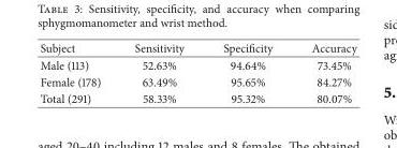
<table><thead><tr><td>Subject</td><td>Sensitivity</td><td>Specificity</td><td>Accuracy</td></tr></thead><tbody><tr><td>Male (113)</td><td>52.63%</td><td>94.64%</td><td>73.45%</td></tr><tr><td>Female (178)</td><td>63.49%</td><td>95.65%</td><td>84.27%</td></tr><tr><td>Total (291)</td><td>58.33%</td><td>95.32%</td><td>80.07%</td></tr></tbody></table>